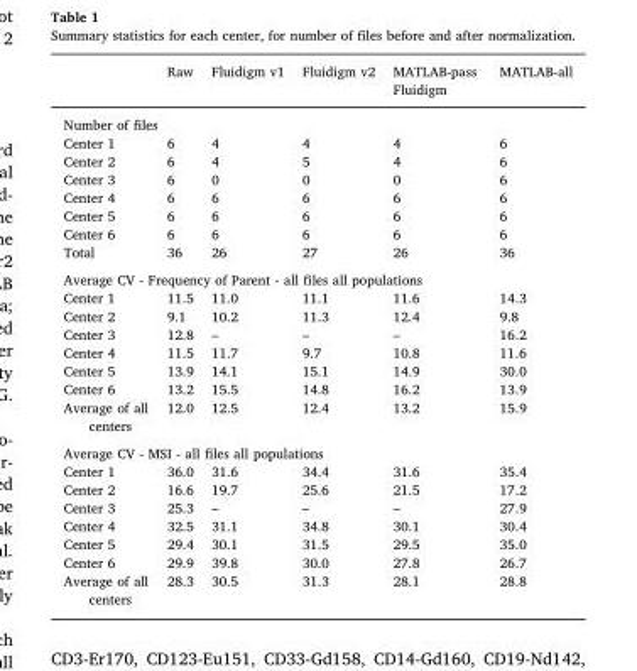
<table><thead><tr><td></td><td>Raw</td><td>Fluidigm v1</td><td>Fluidigm v2</td><td>MATLAB-pass Fluidigm</td><td>MATLAB-all</td></tr></thead><tbody><tr><td colspan="6">Number of files</td></tr><tr><td>Center 1</td><td>6</td><td>4</td><td>4</td><td>4</td><td>6</td></tr><tr><td>Center 2</td><td>6</td><td>4</td><td>5</td><td>4</td><td>6</td></tr><tr><td>Center 3</td><td>6</td><td>0</td><td>0</td><td>0</td><td>6</td></tr><tr><td>Center 4</td><td>6</td><td>6</td><td>6</td><td>6</td><td>6</td></tr><tr><td>Center 5</td><td>6</td><td>6</td><td>6</td><td>6</td><td>6</td></tr><tr><td>Center 6</td><td>6</td><td>6</td><td>6</td><td>6</td><td>6</td></tr><tr><td>Total</td><td>36</td><td>26</td><td>27</td><td>26</td><td>36</td></tr><tr><td colspan="6">Average CV - Frequency of Parent - all files all populations</td></tr><tr><td>Center 1</td><td>11.5</td><td>11.0</td><td>11.1</td><td>11.6</td><td>14.3</td></tr><tr><td>Center 2</td><td>9.1</td><td>10.2</td><td>11.3</td><td>12.4</td><td>9.8</td></tr><tr><td>Center 3</td><td>12.8</td><td>–</td><td>–</td><td>–</td><td>16.2</td></tr><tr><td>Center 4</td><td>11.5</td><td>11.7</td><td>9.7</td><td>10.8</td><td>11.6</td></tr><tr><td>Center 5</td><td>13.9</td><td>14.1</td><td>15.1</td><td>14.9</td><td>30.0</td></tr><tr><td>Center 6</td><td>13.2</td><td>15.5</td><td>14.8</td><td>16.2</td><td>13.9</td></tr><tr><td>Average of all centers</td><td>12.0</td><td>12.5</td><td>12.4</td><td>13.2</td><td>15.9</td></tr><tr><td colspan="6">Average CV - MSI - all files all populations</td></tr><tr><td>Center 1</td><td>36.0</td><td>31.6</td><td>34.4</td><td>31.6</td><td>35.4</td></tr><tr><td>Center 2</td><td>16.6</td><td>19.7</td><td>25.6</td><td>21.5</td><td>17.2</td></tr><tr><td>Center 3</td><td>25.3</td><td>–</td><td>–</td><td>–</td><td>27.9</td></tr><tr><td>Center 4</td><td>32.5</td><td>31.1</td><td>34.8</td><td>30.1</td><td>30.4</td></tr><tr><td>Center 5</td><td>29.4</td><td>30.1</td><td>31.5</td><td>29.5</td><td>35.0</td></tr><tr><td>Center 6</td><td>29.9</td><td>39.8</td><td>30.0</td><td>27.8</td><td>26.7</td></tr><tr><td>Average of all centers</td><td>28.3</td><td>30.5</td><td>31.3</td><td>28.1</td><td>28.8</td></tr></tbody></table>